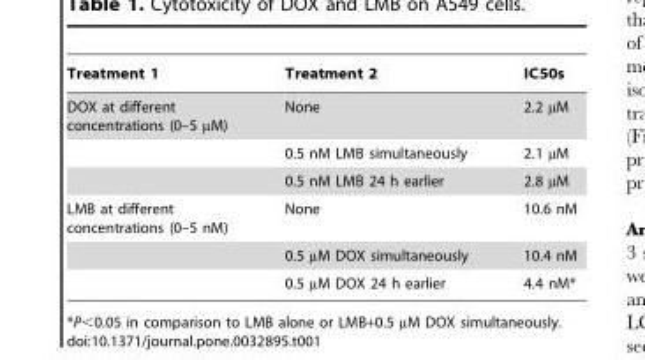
<table><thead><tr><td>Treatment 1</td><td>Treatment 2</td><td>IC50s</td></tr></thead><tbody><tr><td rowspan="3">DOX at different concentrations (0–5 µM)</td><td>None</td><td>2.2 µM</td></tr><tr><td>0.5 nM LMB simultaneously</td><td>2.1 µM</td></tr><tr><td>0.5 nM LMB 24 h earlier</td><td>2.8 µM</td></tr><tr><td rowspan="3">LMB at different concentrations (0–5 nM)</td><td>None</td><td>10.6 nM</td></tr><tr><td>0.5 µM DOX simultaneously</td><td>10.4 nM</td></tr><tr><td>0.5 µM DOX 24 h earlier</td><td>4.4 nM*</td></tr></tbody></table>